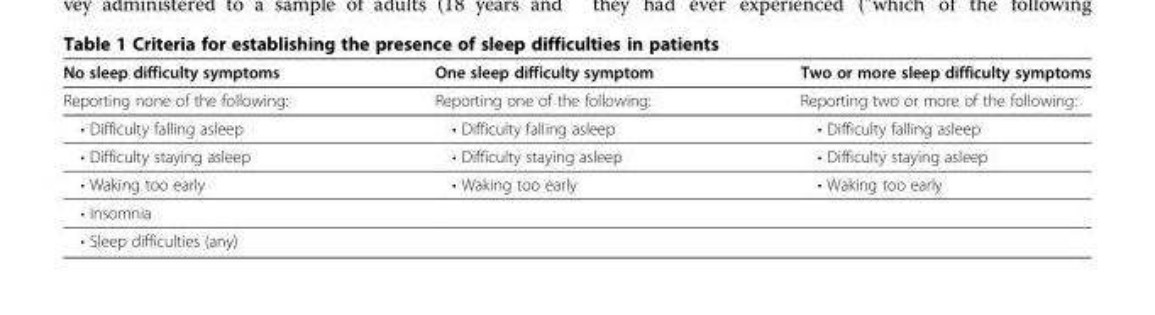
<table><thead><tr><td>No sleep difficulty symptoms</td><td>One sleep difficulty symptom</td><td>Two or more sleep difficulty symptoms</td></tr></thead><tbody><tr><td>Reporting none of the following:</td><td>Reporting one of the following:</td><td>Reporting two or more of the following:</td></tr><tr><td>• Difficulty falling asleep</td><td>• Difficulty falling asleep</td><td>• Difficulty falling asleep</td></tr><tr><td>• Difficulty staying asleep</td><td>• Difficulty staying asleep</td><td>• Difficulty staying asleep</td></tr><tr><td>• Waking too early</td><td>• Waking too early</td><td>• Waking too early</td></tr><tr><td colspan="3">• Insomnia</td></tr><tr><td>• Sleep difficulties (any)</td><td></td><td></td></tr></tbody></table>